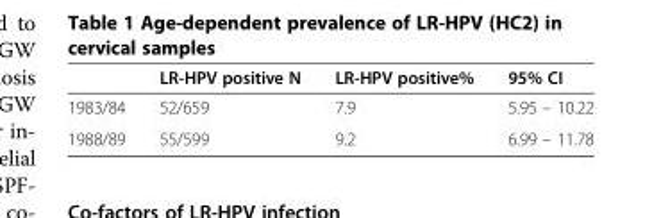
<table><thead><tr><td></td><td>LR-HPV positive N</td><td>LR-HPV positive%</td><td>95% CI</td></tr></thead><tbody><tr><td>1983/84</td><td>52/659</td><td>7.9</td><td>5.95 – 10.22</td></tr><tr><td>1988/89</td><td>55/599</td><td>9.2</td><td>6.99 – 11.78</td></tr></tbody></table>